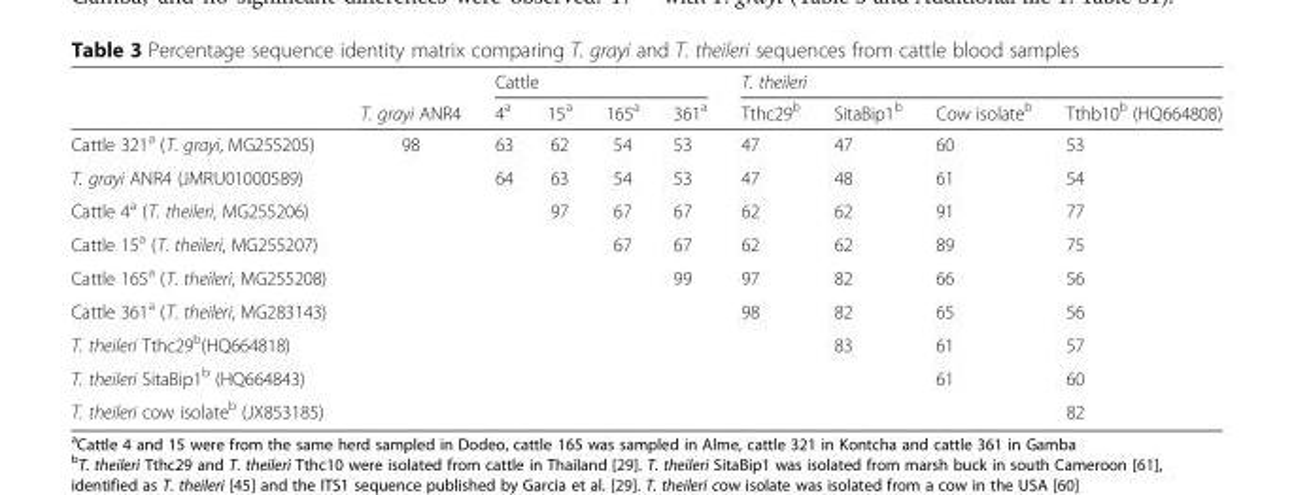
<table><thead><tr><td rowspan="2"></td><td rowspan="2">T. grayi ANR4</td><td colspan="4">Cattle</td><td colspan="4">T. theileri</td></tr><tr><td>4<sup>a</sup></td><td>15<sup>a</sup></td><td>165<sup>a</sup></td><td>361<sup>a</sup></td><td>Tthc29<sup>b</sup></td><td>SitaBip1<sup>b</sup></td><td>Cow isolate<sup>b</sup></td><td>Tthb10<sup>b</sup> (HQ664808)</td></tr></thead><tbody><tr><td>Cattle 321<sup>a</sup> (T. grayi, MG255205)</td><td>98</td><td>63</td><td>62</td><td>54</td><td>53</td><td>47</td><td>47</td><td>60</td><td>53</td></tr><tr><td>T. grayi ANR4 (JMRU01000589)</td><td></td><td>64</td><td>63</td><td>54</td><td>53</td><td>47</td><td>48</td><td>61</td><td>54</td></tr><tr><td>Cattle 4<sup>a</sup> (T. theileri, MG255206)</td><td></td><td></td><td>97</td><td>67</td><td>67</td><td>62</td><td>62</td><td>91</td><td>77</td></tr><tr><td>Cattle 15<sup>a</sup> (T. theileri, MG255207)</td><td></td><td></td><td></td><td>67</td><td>67</td><td>62</td><td>62</td><td>89</td><td>75</td></tr><tr><td>Cattle 165<sup>a</sup> (T. theileri, MG255208)</td><td></td><td></td><td></td><td></td><td>99</td><td>97</td><td>82</td><td>66</td><td>56</td></tr><tr><td>Cattle 361<sup>a</sup> (T. theileri, MG283143)</td><td></td><td></td><td></td><td></td><td></td><td>98</td><td>82</td><td>65</td><td>56</td></tr><tr><td>T. theileri Tthc29<sup>b</sup>(HQ664818)</td><td></td><td></td><td></td><td></td><td></td><td></td><td>83</td><td>61</td><td>57</td></tr><tr><td>T. theileri SitaBip1<sup>b</sup> (HQ664843)</td><td></td><td></td><td></td><td></td><td></td><td></td><td></td><td>61</td><td>60</td></tr><tr><td>T. theileri cow isolate<sup>b</sup> (JX853185)</td><td></td><td></td><td></td><td></td><td></td><td></td><td></td><td></td><td>82</td></tr></tbody></table>